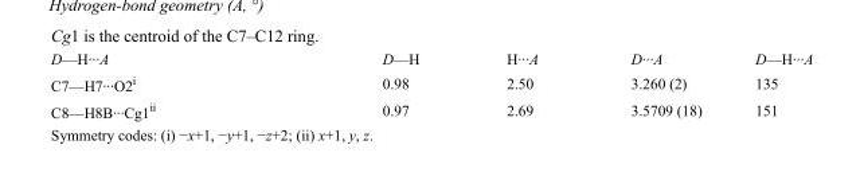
<table><tbody><tr><td>D—H···A</td><td>D—H</td><td>H···A</td><td>D···A</td><td>D—H···A</td></tr><tr><td>C7—H7···O2<sup>i</sup></td><td>0.98</td><td>2.50</td><td>3.260 (2)</td><td>135</td></tr><tr><td>C8—H8B···Cg1<sup>ii</sup></td><td>0.97</td><td>2.69</td><td>3.5709 (18)</td><td>151</td></tr></tbody></table>